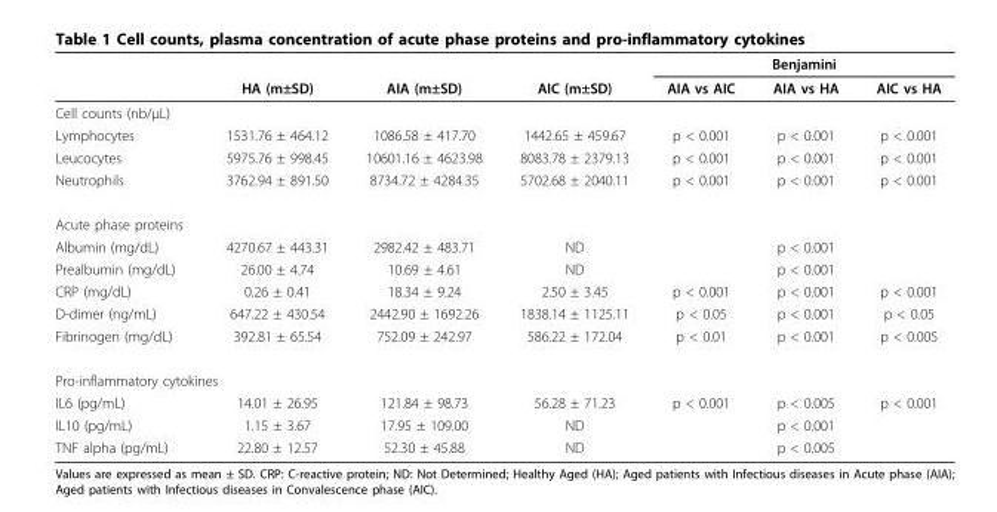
<table><thead><tr><td rowspan="2"></td><td rowspan="2">HA (m±SD)</td><td rowspan="2">AIA (m±SD)</td><td rowspan="2">AIC (m±SD)</td><td colspan="3">Benjamini</td></tr><tr><td>AIA vs AIC</td><td>AIA vs HA</td><td>AIC vs HA</td></tr></thead><tbody><tr><td colspan="7">Cell counts (nb/μL)</td></tr><tr><td>Lymphocytes</td><td>1531.76 ± 464.12</td><td>1086.58 ± 417.70</td><td>1442.65 ± 459.67</td><td>p &lt; 0.001</td><td>p &lt; 0.001</td><td>p &lt; 0.001</td></tr><tr><td>Leucocytes</td><td>5975.76 ± 998.45</td><td>10601.16 ± 4623.98</td><td>8083.78 ± 2379.13</td><td>p &lt; 0.001</td><td>p &lt; 0.001</td><td>p &lt; 0.001</td></tr><tr><td>Neutrophils</td><td>3762.94 ± 891.50</td><td>8734.72 ± 4284.35</td><td>5702.68 ± 2040.11</td><td>p &lt; 0.001</td><td>p &lt; 0.001</td><td>p &lt; 0.001</td></tr><tr><td colspan="7">Acute phase proteins</td></tr><tr><td>Albumin (mg/dL)</td><td>4270.67 ± 443.31</td><td>2982.42 ± 483.71</td><td>ND</td><td></td><td>p &lt; 0.001</td><td></td></tr><tr><td>Prealbumin (mg/dL)</td><td>26.00 ± 4.74</td><td>10.69 ± 4.61</td><td>ND</td><td></td><td>p &lt; 0.001</td><td></td></tr><tr><td>CRP (mg/dL)</td><td>0.26 ± 0.41</td><td>18.34 ± 9.24</td><td>2.50 ± 3.45</td><td>p &lt; 0.001</td><td>p &lt; 0.001</td><td>p &lt; 0.001</td></tr><tr><td>D-dimer (ng/mL)</td><td>647.22 ± 430.54</td><td>2442.90 ± 1692.26</td><td>1838.14 ± 1125.11</td><td>p &lt; 0.05</td><td>p &lt; 0.001</td><td>p &lt; 0.05</td></tr><tr><td>Fibrinogen (mg/dL)</td><td>392.81 ± 65.54</td><td>752.09 ± 242.97</td><td>586.22 ± 172.04</td><td>p &lt; 0.01</td><td>p &lt; 0.001</td><td>p &lt; 0.005</td></tr><tr><td colspan="7">Pro-inflammatory cytokines</td></tr><tr><td>IL6 (pg/mL)</td><td>14.01 ± 26.95</td><td>121.84 ± 98.73</td><td>56.28 ± 71.23</td><td>p &lt; 0.001</td><td>p &lt; 0.005</td><td>p &lt; 0.001</td></tr><tr><td>IL10 (pg/mL)</td><td>1.15 ± 3.67</td><td>17.95 ± 109.00</td><td>ND</td><td></td><td>p &lt; 0.001</td><td></td></tr><tr><td>TNF alpha (pg/mL)</td><td>22.80 ± 12.57</td><td>52.30 ± 45.88</td><td>ND</td><td></td><td>p &lt; 0.005</td><td></td></tr></tbody></table>